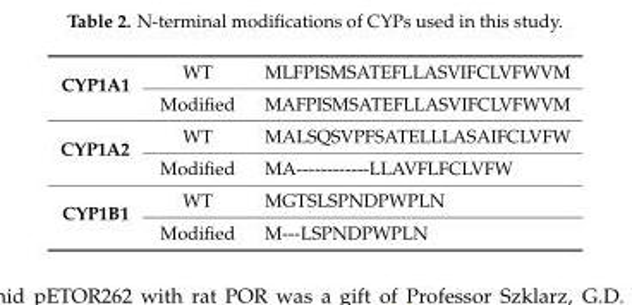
<table><tbody><tr><td rowspan="2">CYP1A1</td><td>WT</td><td>MLFPISMSATEFLLASVIFCLVFWVM</td></tr><tr><td>Modified</td><td>MAFPISMSATEFLLASVIFCLVFWVM</td></tr><tr><td rowspan="2">CYP1A2</td><td>WT</td><td>MALSQSVPFSATELLLASAIFCLVFW</td></tr><tr><td>Modified</td><td>MA------------LLAVFLFCLVFW</td></tr><tr><td rowspan="2">CYP1B1</td><td>WT</td><td>MGTSLSPNDPWPLN</td></tr><tr><td>Modified</td><td>M---LSPNDPWPLN</td></tr></tbody></table>